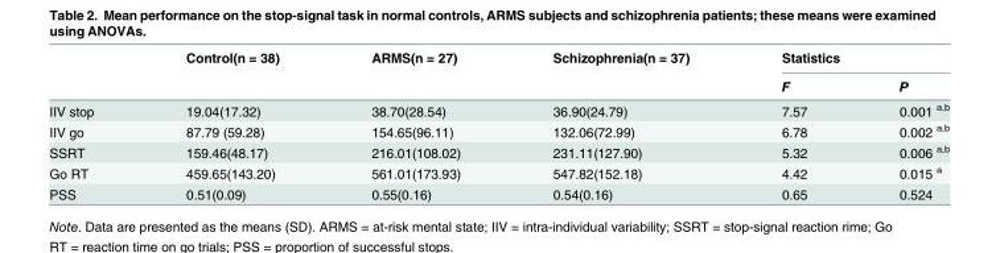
<table><thead><tr><td rowspan="2"></td><td rowspan="2">Control(n = 38)</td><td rowspan="2">ARMS(n = 27)</td><td rowspan="2">Schizophrenia(n = 37)</td><td colspan="2">Statistics</td></tr><tr><td>F</td><td>P</td></tr></thead><tbody><tr><td>IIV stop</td><td>19.04(17.32)</td><td>38.70(28.54)</td><td>36.90(24.79)</td><td>7.57</td><td>0.001 <sup>a,b</sup></td></tr><tr><td>IIV go</td><td>87.79 (59.28)</td><td>154.65(96.11)</td><td>132.06(72.99)</td><td>6.78</td><td>0.002 <sup>a,b</sup></td></tr><tr><td>SSRT</td><td>159.46(48.17)</td><td>216.01(108.02)</td><td>231.11(127.90)</td><td>5.32</td><td>0.006 <sup>a,b</sup></td></tr><tr><td>Go RT</td><td>459.65(143.20)</td><td>561.01(173.93)</td><td>547.82(152.18)</td><td>4.42</td><td>0.015 <sup>a</sup></td></tr><tr><td>PSS</td><td>0.51(0.09)</td><td>0.55(0.16)</td><td>0.54(0.16)</td><td>0.65</td><td>0.524</td></tr></tbody></table>